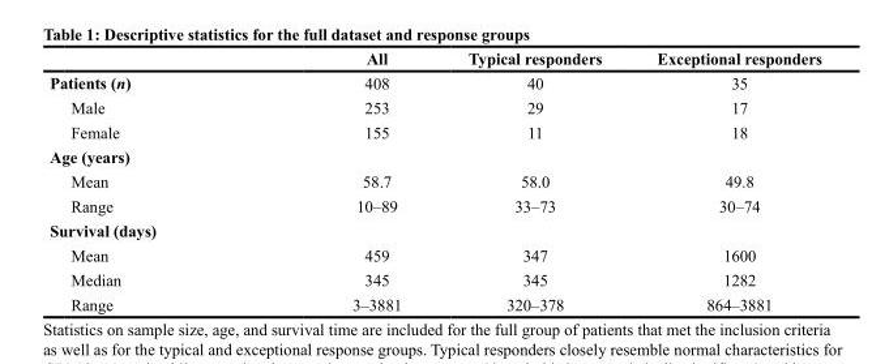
<table><thead><tr><td></td><td>All</td><td>Typical responders</td><td>Exceptional responders</td></tr></thead><tbody><tr><td>Patients (n)</td><td>408</td><td>40</td><td>35</td></tr><tr><td>Male</td><td>253</td><td>29</td><td>17</td></tr><tr><td>Female</td><td>155</td><td>11</td><td>18</td></tr><tr><td colspan="4">Age (years)</td></tr><tr><td>Mean</td><td>58.7</td><td>58.0</td><td>49.8</td></tr><tr><td>Range</td><td>10–89</td><td>33–73</td><td>30–74</td></tr><tr><td colspan="4">Survival (days)</td></tr><tr><td>Mean</td><td>459</td><td>347</td><td>1600</td></tr><tr><td>Median</td><td>345</td><td>345</td><td>1282</td></tr><tr><td>Range</td><td>3–3881</td><td>320–378</td><td>864–3881</td></tr></tbody></table>